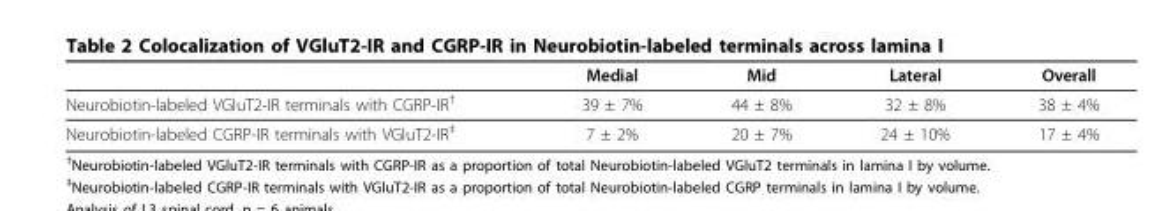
<table><thead><tr><td></td><td>Medial</td><td>Mid</td><td>Lateral</td><td>Overall</td></tr></thead><tbody><tr><td>Neurobiotin-labeled VGluT2-IR terminals with CGRP-IR<sup>†</sup></td><td>39 ± 7%</td><td>44 ± 8%</td><td>32 ± 8%</td><td>38 ± 4%</td></tr><tr><td>Neurobiotin-labeled CGRP-IR terminals with VGluT2-IR<sup>‡</sup></td><td>7 ± 2%</td><td>20 ± 7%</td><td>24 ± 10%</td><td>17 ± 4%</td></tr></tbody></table>